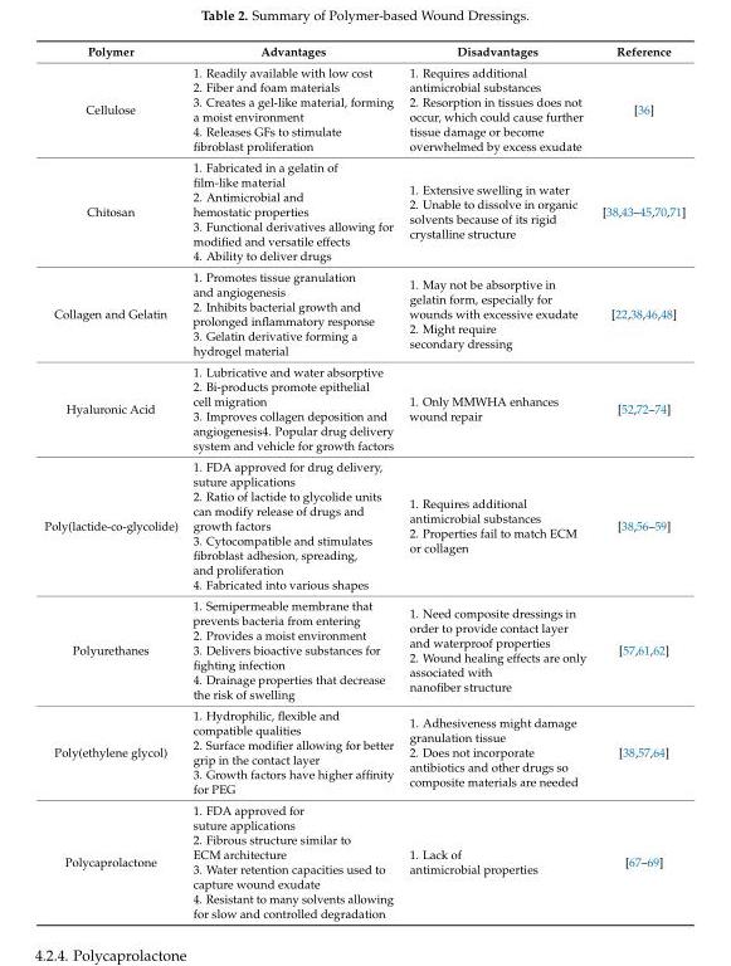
<table><thead><tr><td>Polymer</td><td>Advantages</td><td>Disadvantages</td><td>Reference</td></tr></thead><tbody><tr><td>Cellulose</td><td>1. Readily available with low cost 2. Fiber and foam materials 3. Creates a gel-like material, forming a moist environment 4. Releases GFs to stimulate fibroblast proliferation</td><td>1. Requires additional antimicrobial substances 2. Resorption in tissues does not occur, which could cause further tissue damage or become overwhelmed by excess exudate</td><td>[36]</td></tr><tr><td>Chitosan</td><td>1. Fabricated in a gelatin of film-like material 2. Antimicrobial and hemostatic properties 3. Functional derivatives allowing for modified and versatile effects 4. Ability to deliver drugs</td><td>1. Extensive swelling in water 2. Unable to dissolve in organic solvents because of its rigid crystalline structure</td><td>[38,43–45,70,71]</td></tr><tr><td>Collagen and Gelatin</td><td>1. Promotes tissue granulation and angiogenesis 2. Inhibits bacterial growth and prolonged inflammatory response 3. Gelatin derivative forming a hydrogel material</td><td>1. May not be absorptive in gelatin form, especially for wounds with excessive exudate 2. Might require secondary dressing</td><td>[22,38,46,48]</td></tr><tr><td>Hyaluronic Acid</td><td>1. Lubricative and water absorptive 2. Bi-products promote epithelial cell migration 3. Improves collagen deposition and angiogenesis4. Popular drug delivery system and vehicle for growth factors</td><td>1. Only MMWHA enhances wound repair</td><td>[52,72–74]</td></tr><tr><td>Poly(lactide-co-glycolide)</td><td>1. FDA approved for drug delivery, suture applications 2. Ratio of lactide to glycolide units can modify release of drugs and growth factors 3. Cytocompatible and stimulates fibroblast adhesion, spreading, and proliferation 4. Fabricated into various shapes</td><td>1. Requires additional antimicrobial substances 2. Properties fail to match ECM or collagen</td><td>[38,56–59]</td></tr><tr><td>Polyurethanes</td><td>1. Semipermeable membrane that prevents bacteria from entering 2. Provides a moist environment 3. Delivers bioactive substances for fighting infection 4. Drainage properties that decrease the risk of swelling</td><td>1. Need composite dressings in order to provide contact layer and waterproof properties 2. Wound healing effects are only associated with nanofiber structure</td><td>[57,61,62]</td></tr><tr><td>Poly(ethylene glycol)</td><td>1. Hydrophilic, flexible and compatible qualities 2. Surface modifier allowing for better grip in the contact layer 3. Growth factors have higher affinity for PEG</td><td>1. Adhesiveness might damage granulation tissue 2. Does not incorporate antibiotics and other drugs so composite materials are needed</td><td>[38,57,64]</td></tr><tr><td>Polycaprolactone</td><td>1. FDA approved for suture applications 2. Fibrous structure similar to ECM architecture 3. Water retention capacities used to capture wound exudate 4. Resistant to many solvents allowing for slow and controlled degradation</td><td>1. Lack of antimicrobial properties</td><td>[67–69]</td></tr></tbody></table>